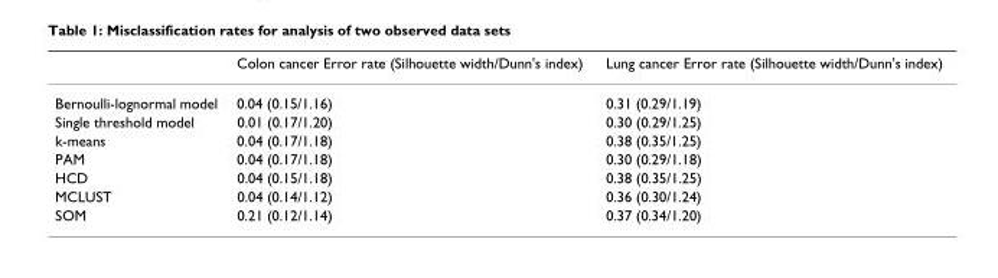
<table><thead><tr><td></td><td>Colon cancer Error rate (Silhouette width/Dunn&#x27;s index)</td><td>Lung cancer Error rate (Silhouette width/Dunn&#x27;s index)</td></tr></thead><tbody><tr><td>Bernoulli-lognormal model</td><td>0.04 (0.15/1.16)</td><td>0.31 (0.29/1.19)</td></tr><tr><td>Single threshold model</td><td>0.01 (0.17/1.20)</td><td>0.30 (0.29/1.25)</td></tr><tr><td>k-means</td><td>0.04 (0.17/1.18)</td><td>0.38 (0.35/1.25)</td></tr><tr><td>PAM</td><td>0.04 (0.17/1.18)</td><td>0.30 (0.29/1.18)</td></tr><tr><td>HCD</td><td>0.04 (0.15/1.18)</td><td>0.38 (0.35/1.25)</td></tr><tr><td>MCLUST</td><td>0.04 (0.14/1.12)</td><td>0.36 (0.30/1.24)</td></tr><tr><td>SOM</td><td>0.21 (0.12/1.14)</td><td>0.37 (0.34/1.20)</td></tr></tbody></table>